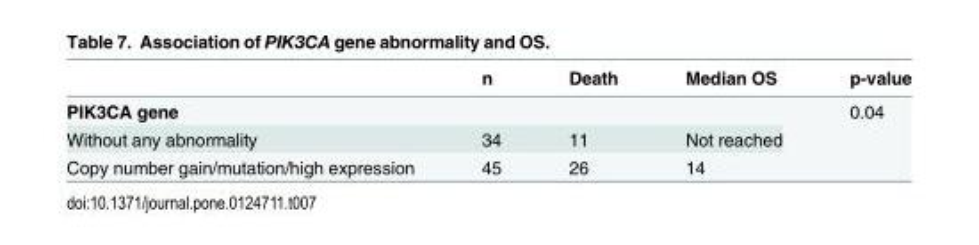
<table><thead><tr><td></td><td>n</td><td>Death</td><td>Median OS</td><td>p-value</td></tr></thead><tbody><tr><td colspan="4">PIK3CA gene</td><td rowspan="3">0.04</td></tr><tr><td>Without any abnormality</td><td>34</td><td>11</td><td>Not reached</td></tr><tr><td>Copy number gain/mutation/high expression</td><td>45</td><td>26</td><td>14</td></tr></tbody></table>